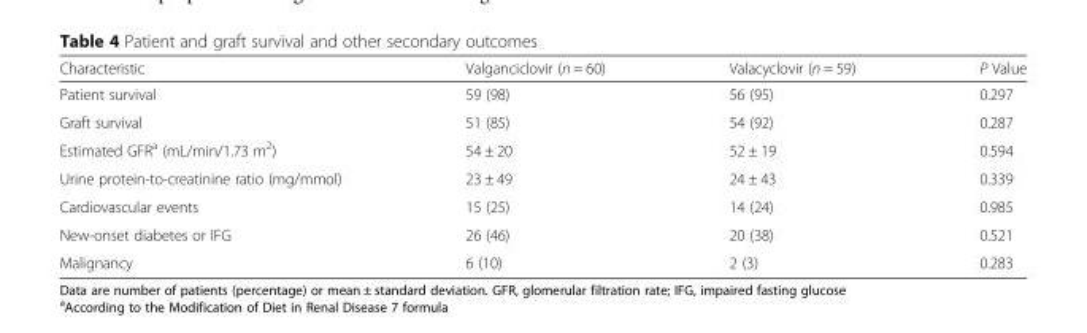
<table><thead><tr><td>Characteristic</td><td>Valganciclovir (n = 60)</td><td>Valacyclovir (n = 59)</td><td>P Value</td></tr></thead><tbody><tr><td>Patient survival</td><td>59 (98)</td><td>56 (95)</td><td>0.297</td></tr><tr><td>Graft survival</td><td>51 (85)</td><td>54 (92)</td><td>0.287</td></tr><tr><td>Estimated GFR<sup>a</sup> (mL/min/1.73 m<sup>2</sup>)</td><td>54 ± 20</td><td>52 ± 19</td><td>0.594</td></tr><tr><td>Urine protein-to-creatinine ratio (mg/mmol)</td><td>23 ± 49</td><td>24 ± 43</td><td>0.339</td></tr><tr><td>Cardiovascular events</td><td>15 (25)</td><td>14 (24)</td><td>0.985</td></tr><tr><td>New-onset diabetes or IFG</td><td>26 (46)</td><td>20 (38)</td><td>0.521</td></tr><tr><td>Malignancy</td><td>6 (10)</td><td>2 (3)</td><td>0.283</td></tr></tbody></table>